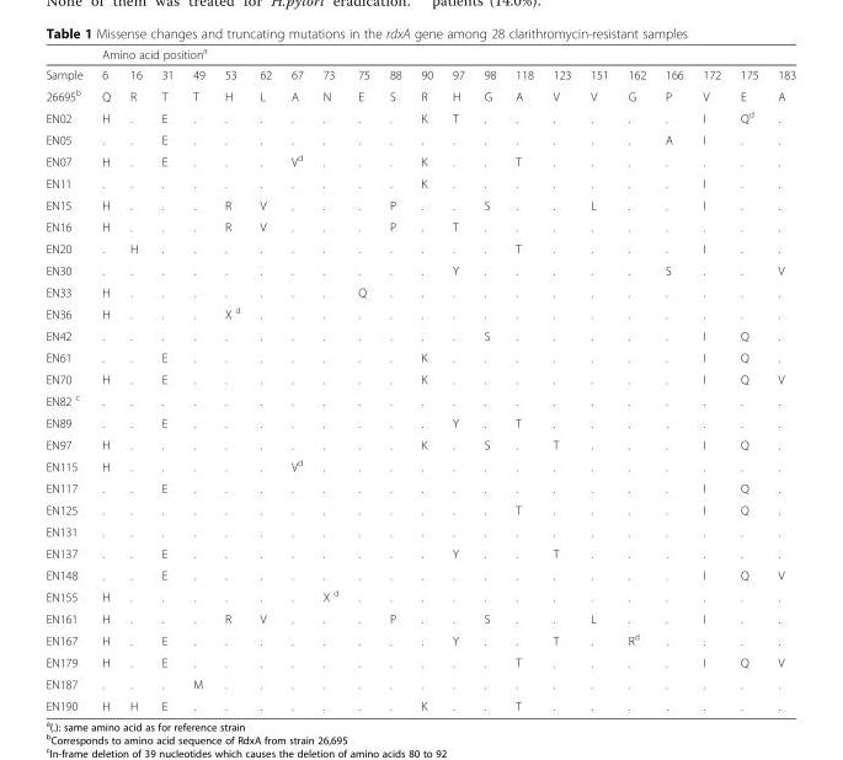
<table><thead><tr><td rowspan="2">Sample</td><td colspan="21">Amino acid position<sup>a</sup></td></tr><tr><td>6</td><td>16</td><td>31</td><td>49</td><td>53</td><td>62</td><td>67</td><td>73</td><td>75</td><td>88</td><td>90</td><td>97</td><td>98</td><td>118</td><td>123</td><td>151</td><td>162</td><td>166</td><td>172</td><td>175</td><td>183</td></tr></thead><tbody><tr><td>26695<sup>b</sup></td><td>Q</td><td>R</td><td>T</td><td>T</td><td>H</td><td>L</td><td>A</td><td>N</td><td>E</td><td>S</td><td>R</td><td>H</td><td>G</td><td>A</td><td>V</td><td>V</td><td>G</td><td>P</td><td>V</td><td>E</td><td>A</td></tr><tr><td>EN02</td><td>H</td><td>.</td><td>E</td><td>.</td><td>.</td><td>.</td><td>.</td><td>.</td><td>.</td><td>.</td><td>K</td><td>T</td><td>.</td><td>.</td><td>.</td><td>.</td><td>.</td><td>.</td><td>I</td><td>Q<sup>d</sup></td><td>.</td></tr><tr><td>EN05</td><td>.</td><td>.</td><td>E</td><td>.</td><td>.</td><td>.</td><td>.</td><td>.</td><td>.</td><td>.</td><td>.</td><td>.</td><td>.</td><td>.</td><td>.</td><td>.</td><td>.</td><td>A</td><td>I</td><td>.</td><td>.</td></tr><tr><td>EN07</td><td>H</td><td>.</td><td>E</td><td>.</td><td>.</td><td>.</td><td>V<sup>d</sup></td><td>.</td><td>.</td><td>.</td><td>K</td><td>.</td><td>.</td><td>T</td><td>.</td><td>.</td><td>.</td><td>.</td><td>.</td><td>.</td><td>.</td></tr><tr><td>EN11</td><td>.</td><td>.</td><td>.</td><td>.</td><td>.</td><td>.</td><td>.</td><td>.</td><td>.</td><td>.</td><td>K</td><td>.</td><td>.</td><td>.</td><td>.</td><td>.</td><td>.</td><td>.</td><td>I</td><td>.</td><td>.</td></tr><tr><td>EN15</td><td>H</td><td>.</td><td>.</td><td>.</td><td>R</td><td>V</td><td>.</td><td>.</td><td>.</td><td>P</td><td>.</td><td>.</td><td>S</td><td>.</td><td>.</td><td>L</td><td>.</td><td>.</td><td>I</td><td>.</td><td>.</td></tr><tr><td>EN16</td><td>H</td><td>.</td><td>.</td><td>.</td><td>R</td><td>V</td><td>.</td><td>.</td><td>.</td><td>P</td><td>.</td><td>T</td><td>.</td><td>.</td><td>.</td><td>.</td><td>.</td><td>.</td><td>.</td><td>.</td><td>.</td></tr><tr><td>EN20</td><td>.</td><td>H</td><td>.</td><td>.</td><td>.</td><td>.</td><td>.</td><td>.</td><td>.</td><td>.</td><td>.</td><td>.</td><td>.</td><td>T</td><td>.</td><td>.</td><td>.</td><td>.</td><td>I</td><td>.</td><td>.</td></tr><tr><td>EN30</td><td>.</td><td>.</td><td>.</td><td>.</td><td>.</td><td>.</td><td>.</td><td>.</td><td>.</td><td>.</td><td>.</td><td>Y</td><td>.</td><td>.</td><td>.</td><td>.</td><td>.</td><td>S</td><td>.</td><td>.</td><td>V</td></tr><tr><td>EN33</td><td>H</td><td>.</td><td>.</td><td>.</td><td>.</td><td>.</td><td>.</td><td>.</td><td>Q</td><td>.</td><td>.</td><td>.</td><td>.</td><td>.</td><td>.</td><td>.</td><td>.</td><td>.</td><td>.</td><td>.</td><td>.</td></tr><tr><td>EN36</td><td>H</td><td>.</td><td>.</td><td>.</td><td>X <sup>d</sup></td><td>.</td><td>.</td><td>.</td><td>.</td><td>.</td><td>.</td><td>.</td><td>.</td><td>.</td><td>.</td><td>.</td><td>.</td><td>.</td><td>.</td><td>.</td><td>.</td></tr><tr><td>EN42</td><td>.</td><td>.</td><td>.</td><td>.</td><td>.</td><td>.</td><td>.</td><td>.</td><td>.</td><td>.</td><td>.</td><td>.</td><td>S</td><td>.</td><td>.</td><td>.</td><td>.</td><td>.</td><td>I</td><td>Q</td><td>.</td></tr><tr><td>EN61</td><td>.</td><td>.</td><td>E</td><td>.</td><td>.</td><td>.</td><td>.</td><td>.</td><td>.</td><td>.</td><td>K</td><td>.</td><td>.</td><td>.</td><td>.</td><td>.</td><td>.</td><td>.</td><td>I</td><td>Q</td><td>.</td></tr><tr><td>EN70</td><td>H</td><td>.</td><td>E</td><td>.</td><td>.</td><td>.</td><td>.</td><td>.</td><td>.</td><td>.</td><td>K</td><td>.</td><td>.</td><td>.</td><td>.</td><td>.</td><td>.</td><td>.</td><td>I</td><td>Q</td><td>V</td></tr><tr><td>EN82 <sup>c</sup></td><td>.</td><td>.</td><td>.</td><td>.</td><td>.</td><td>.</td><td>.</td><td>.</td><td>.</td><td>.</td><td>.</td><td>.</td><td>.</td><td>.</td><td>.</td><td>.</td><td>.</td><td>.</td><td>.</td><td>.</td><td>.</td></tr><tr><td>EN89</td><td>.</td><td>.</td><td>E</td><td>.</td><td>.</td><td>.</td><td>.</td><td>.</td><td>.</td><td>.</td><td>.</td><td>Y</td><td>.</td><td>T</td><td>.</td><td>.</td><td>.</td><td>.</td><td>.</td><td>.</td><td>.</td></tr><tr><td>EN97</td><td>H</td><td>.</td><td>.</td><td>.</td><td>.</td><td>.</td><td>.</td><td>.</td><td>.</td><td>.</td><td>K</td><td>.</td><td>S</td><td>.</td><td>T</td><td>.</td><td>.</td><td>.</td><td>I</td><td>Q</td><td>.</td></tr><tr><td>EN115</td><td>H</td><td>.</td><td>.</td><td>.</td><td>.</td><td>.</td><td>V<sup>d</sup></td><td>.</td><td>.</td><td>.</td><td>.</td><td>.</td><td>.</td><td>.</td><td>.</td><td>.</td><td>.</td><td>.</td><td>.</td><td>.</td><td>.</td></tr><tr><td>EN117</td><td>.</td><td>.</td><td>E</td><td>.</td><td>.</td><td>.</td><td>.</td><td>.</td><td>.</td><td>.</td><td>.</td><td>.</td><td>.</td><td>.</td><td>.</td><td>.</td><td>.</td><td>.</td><td>I</td><td>Q</td><td>.</td></tr><tr><td>EN125</td><td>.</td><td>.</td><td>.</td><td>.</td><td>.</td><td>.</td><td>.</td><td>.</td><td>.</td><td>.</td><td>.</td><td>.</td><td>.</td><td>T</td><td>.</td><td>.</td><td>.</td><td>.</td><td>I</td><td>Q</td><td>.</td></tr><tr><td>EN131</td><td>.</td><td>.</td><td>.</td><td>.</td><td>.</td><td>.</td><td>.</td><td>.</td><td>.</td><td>.</td><td>.</td><td>.</td><td>.</td><td>.</td><td>.</td><td>.</td><td>.</td><td>.</td><td>.</td><td>.</td><td>.</td></tr><tr><td>EN137</td><td>.</td><td>.</td><td>E</td><td>.</td><td>.</td><td>.</td><td>.</td><td>.</td><td>.</td><td>.</td><td>.</td><td>Y</td><td>.</td><td>.</td><td>T</td><td>.</td><td>.</td><td>.</td><td>.</td><td>.</td><td>.</td></tr><tr><td>EN148</td><td>.</td><td>.</td><td>E</td><td>.</td><td>.</td><td>.</td><td>.</td><td>.</td><td>.</td><td>.</td><td>.</td><td>.</td><td>.</td><td>.</td><td>.</td><td>.</td><td>.</td><td>.</td><td>I</td><td>Q</td><td>V</td></tr><tr><td>EN155</td><td>H</td><td>.</td><td>.</td><td>.</td><td>.</td><td>.</td><td>.</td><td>X <sup>d</sup></td><td>.</td><td>.</td><td>.</td><td>.</td><td>.</td><td>.</td><td>.</td><td>.</td><td>.</td><td>.</td><td>.</td><td>.</td><td>.</td></tr><tr><td>EN161</td><td>H</td><td>.</td><td>.</td><td>.</td><td>R</td><td>V</td><td>.</td><td>.</td><td>.</td><td>P</td><td>.</td><td>.</td><td>S</td><td>.</td><td>.</td><td>L</td><td>.</td><td>.</td><td>I</td><td>.</td><td>.</td></tr><tr><td>EN167</td><td>H</td><td>.</td><td>E</td><td>.</td><td>.</td><td>.</td><td>.</td><td>.</td><td>.</td><td>.</td><td>.</td><td>Y</td><td>.</td><td>.</td><td>T</td><td>.</td><td>R<sup>d</sup></td><td>.</td><td>.</td><td>.</td><td>.</td></tr><tr><td>EN179</td><td>H</td><td>.</td><td>E</td><td>.</td><td>.</td><td>.</td><td>.</td><td>.</td><td>.</td><td>.</td><td>.</td><td>.</td><td>.</td><td>T</td><td>.</td><td>.</td><td>.</td><td>.</td><td>I</td><td>Q</td><td>V</td></tr><tr><td>EN187</td><td>.</td><td>.</td><td>.</td><td>M</td><td>.</td><td>.</td><td>.</td><td>.</td><td>.</td><td>.</td><td>.</td><td>.</td><td>.</td><td>.</td><td>.</td><td>.</td><td>.</td><td>.</td><td>.</td><td>.</td><td>.</td></tr><tr><td>EN190</td><td>H</td><td>H</td><td>E</td><td>.</td><td>.</td><td>.</td><td>.</td><td>.</td><td>.</td><td>.</td><td>K</td><td>.</td><td>.</td><td>T</td><td>.</td><td>.</td><td>.</td><td>.</td><td>.</td><td>.</td><td>.</td></tr></tbody></table>